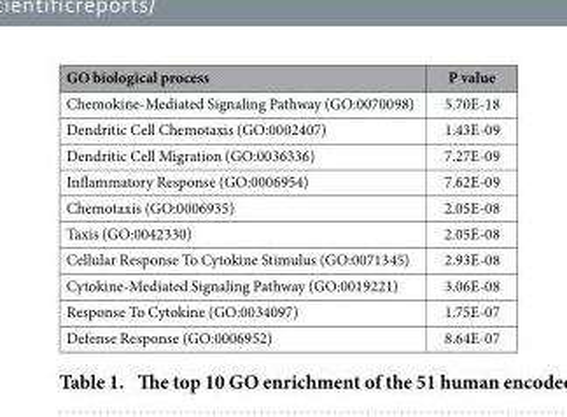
<table><thead><tr><td>GO biological process</td><td>P value</td></tr></thead><tbody><tr><td>Chemokine-Mediated Signaling Pathway (GO:0070098)</td><td>5.70E-18</td></tr><tr><td>Dendritic Cell Chemotaxis (GO:0002407)</td><td>1.43E-09</td></tr><tr><td>Dendritic Cell Migration (GO:0036336)</td><td>7.27E-09</td></tr><tr><td>Inflammatory Response (GO:0006954)</td><td>7.62E-09</td></tr><tr><td>Chemotaxis (GO:0006935)</td><td>2.05E-08</td></tr><tr><td>Taxis (GO:0042330)</td><td>2.05E-08</td></tr><tr><td>Cellular Response To Cytokine Stimulus (GO:0071345)</td><td>2.93E-08</td></tr><tr><td>Cytokine-Mediated Signaling Pathway (GO:0019221)</td><td>3.06E-08</td></tr><tr><td>Response To Cytokine (GO:0034097)</td><td>1.75E-07</td></tr><tr><td>Defense Response (GO:0006952)</td><td>8.64E-07</td></tr></tbody></table>